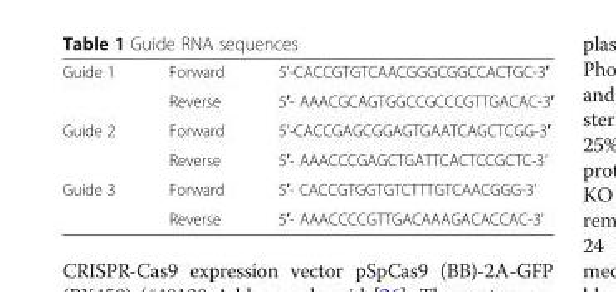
<table><tbody><tr><td rowspan="2">Guide 1</td><td>Forward</td><td>5’-CACCGTGTCAACGGGCGGCCACTGC-3′</td></tr><tr><td>Reverse</td><td>5′- AAACGCAGTGGCCGCCCGTTGACAC-3′</td></tr><tr><td rowspan="2">Guide 2</td><td>Forward</td><td>5’-CACCGAGCGGAGTGAATCAGCTCGG-3′</td></tr><tr><td>Reverse</td><td>5′- AAACCCGAGCTGATTCACTCCGCTC-3’</td></tr><tr><td rowspan="2">Guide 3</td><td>Forward</td><td>5′- CACCGTGGTGTCTTTGTCAACGGG-3’</td></tr><tr><td>Reverse</td><td>5′- AAACCCCGTTGACAAAGACACCAC-3’</td></tr></tbody></table>